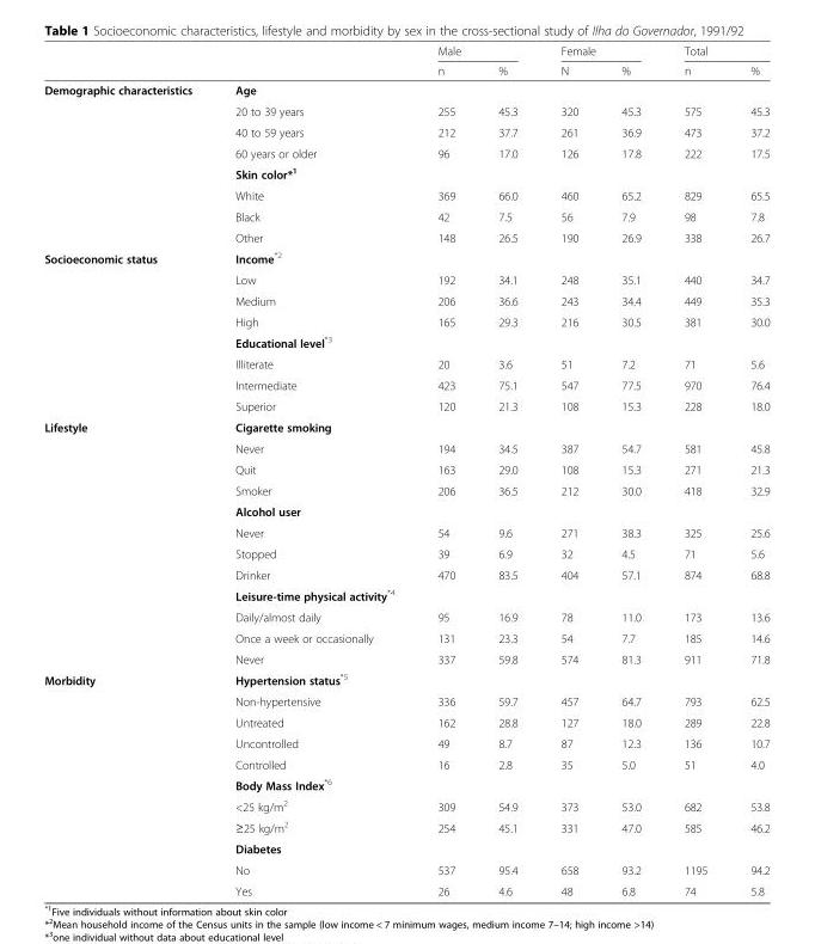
<table><thead><tr><td rowspan="2"></td><td rowspan="2"></td><td colspan="2">Male</td><td colspan="2">Female</td><td colspan="2">Total</td></tr><tr><td>n</td><td>%</td><td>N</td><td>%</td><td>n</td><td>%</td></tr></thead><tbody><tr><td rowspan="8">Demographic characteristics</td><td>Age</td><td></td><td></td><td></td><td></td><td></td><td></td></tr><tr><td>20 to 39 years</td><td>255</td><td>45.3</td><td>320</td><td>45.3</td><td>575</td><td>45.3</td></tr><tr><td>40 to 59 years</td><td>212</td><td>37.7</td><td>261</td><td>36.9</td><td>473</td><td>37.2</td></tr><tr><td>60 years or older</td><td>96</td><td>17.0</td><td>126</td><td>17.8</td><td>222</td><td>17.5</td></tr><tr><td>Skin color*<sup>1</sup></td><td></td><td></td><td></td><td></td><td></td><td></td></tr><tr><td>White</td><td>369</td><td>66.0</td><td>460</td><td>65.2</td><td>829</td><td>65.5</td></tr><tr><td>Black</td><td>42</td><td>7.5</td><td>56</td><td>7.9</td><td>98</td><td>7.8</td></tr><tr><td>Other</td><td>148</td><td>26.5</td><td>190</td><td>26.9</td><td>338</td><td>26.7</td></tr><tr><td rowspan="8">Socioeconomic status</td><td>Income<sup>*2</sup></td><td></td><td></td><td></td><td></td><td></td><td></td></tr><tr><td>Low</td><td>192</td><td>34.1</td><td>248</td><td>35.1</td><td>440</td><td>34.7</td></tr><tr><td>Medium</td><td>206</td><td>36.6</td><td>243</td><td>34.4</td><td>449</td><td>35.3</td></tr><tr><td>High</td><td>165</td><td>29.3</td><td>216</td><td>30.5</td><td>381</td><td>30.0</td></tr><tr><td>Educational level<sup>*3</sup></td><td></td><td></td><td></td><td></td><td></td><td></td></tr><tr><td>Illiterate</td><td>20</td><td>3.6</td><td>51</td><td>7.2</td><td>71</td><td>5.6</td></tr><tr><td>Intermediate</td><td>423</td><td>75.1</td><td>547</td><td>77.5</td><td>970</td><td>76.4</td></tr><tr><td>Superior</td><td>120</td><td>21.3</td><td>108</td><td>15.3</td><td>228</td><td>18.0</td></tr><tr><td rowspan="12">Lifestyle</td><td>Cigarette smoking</td><td></td><td></td><td></td><td></td><td></td><td></td></tr><tr><td>Never</td><td>194</td><td>34.5</td><td>387</td><td>54.7</td><td>581</td><td>45.8</td></tr><tr><td>Quit</td><td>163</td><td>29.0</td><td>108</td><td>15.3</td><td>271</td><td>21.3</td></tr><tr><td>Smoker</td><td>206</td><td>36.5</td><td>212</td><td>30.0</td><td>418</td><td>32.9</td></tr><tr><td>Alcohol user</td><td></td><td></td><td></td><td></td><td></td><td></td></tr><tr><td>Never</td><td>54</td><td>9.6</td><td>271</td><td>38.3</td><td>325</td><td>25.6</td></tr><tr><td>Stopped</td><td>39</td><td>6.9</td><td>32</td><td>4.5</td><td>71</td><td>5.6</td></tr><tr><td>Drinker</td><td>470</td><td>83.5</td><td>404</td><td>57.1</td><td>874</td><td>68.8</td></tr><tr><td>Leisure-time physical activity<sup>*4</sup></td><td></td><td></td><td></td><td></td><td></td><td></td></tr><tr><td>Daily/almost daily</td><td>95</td><td>16.9</td><td>78</td><td>11.0</td><td>173</td><td>13.6</td></tr><tr><td>Once a week or occasionally</td><td>131</td><td>23.3</td><td>54</td><td>7.7</td><td>185</td><td>14.6</td></tr><tr><td>Never</td><td>337</td><td>59.8</td><td>574</td><td>81.3</td><td>911</td><td>71.8</td></tr><tr><td rowspan="11">Morbidity</td><td>Hypertension status<sup>*5</sup></td><td></td><td></td><td></td><td></td><td></td><td></td></tr><tr><td>Non-hypertensive</td><td>336</td><td>59.7</td><td>457</td><td>64.7</td><td>793</td><td>62.5</td></tr><tr><td>Untreated</td><td>162</td><td>28.8</td><td>127</td><td>18.0</td><td>289</td><td>22.8</td></tr><tr><td>Uncontrolled</td><td>49</td><td>8.7</td><td>87</td><td>12.3</td><td>136</td><td>10.7</td></tr><tr><td>Controlled</td><td>16</td><td>2.8</td><td>35</td><td>5.0</td><td>51</td><td>4.0</td></tr><tr><td>Body Mass Index<sup>*6</sup></td><td></td><td></td><td></td><td></td><td></td><td></td></tr><tr><td>&lt;25 kg/m<sup>2</sup></td><td>309</td><td>54.9</td><td>373</td><td>53.0</td><td>682</td><td>53.8</td></tr><tr><td>≥25 kg/m<sup>2</sup></td><td>254</td><td>45.1</td><td>331</td><td>47.0</td><td>585</td><td>46.2</td></tr><tr><td>Diabetes</td><td></td><td></td><td></td><td></td><td></td><td></td></tr><tr><td>No</td><td>537</td><td>95.4</td><td>658</td><td>93.2</td><td>1195</td><td>94.2</td></tr><tr><td>Yes</td><td>26</td><td>4.6</td><td>48</td><td>6.8</td><td>74</td><td>5.8</td></tr></tbody></table>